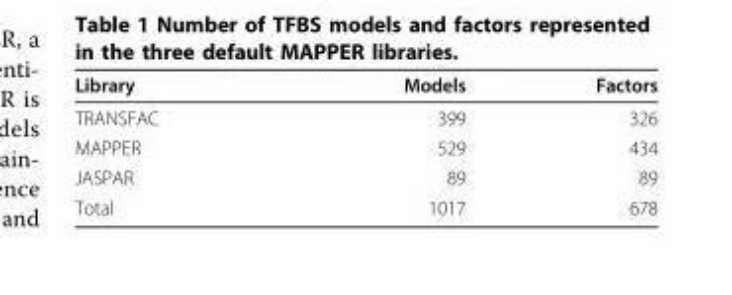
<table><thead><tr><td>Library</td><td>Models</td><td>Factors</td></tr></thead><tbody><tr><td>TRANSFAC</td><td>399</td><td>326</td></tr><tr><td>MAPPER</td><td>529</td><td>434</td></tr><tr><td>JASPAR</td><td>89</td><td>89</td></tr><tr><td>Total</td><td>1017</td><td>678</td></tr></tbody></table>